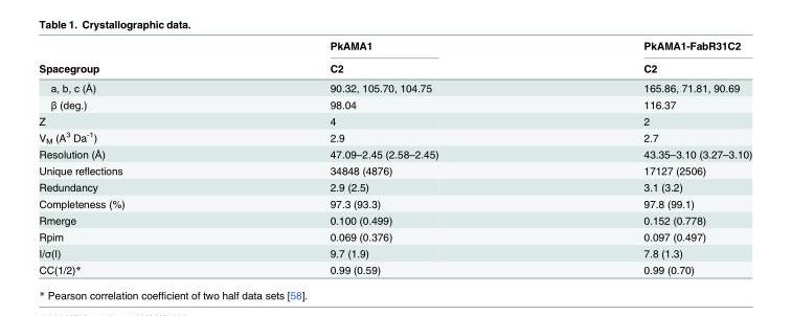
<table><thead><tr><td rowspan="2">Spacegroup</td><td rowspan="2">PkAMA1 C2</td><td rowspan="2">PkAMA1-FabR31C2 C2</td></tr><tr></tr></thead><tbody><tr><td>a, b, c (Å)</td><td>90.32, 105.70, 104.75</td><td>165.86, 71.81, 90.69</td></tr><tr><td>β (deg.)</td><td>98.04</td><td>116.37</td></tr><tr><td>Z</td><td>4</td><td>2</td></tr><tr><td>V<sub>M</sub> (A<sup>3</sup> Da<sup>-1</sup>)</td><td>2.9</td><td>2.7</td></tr><tr><td>Resolution (Å)</td><td>47.09–2.45 (2.58–2.45)</td><td>43.35–3.10 (3.27–3.10)</td></tr><tr><td>Unique reflections</td><td>34848 (4876)</td><td>17127 (2506)</td></tr><tr><td>Redundancy</td><td>2.9 (2.5)</td><td>3.1 (3.2)</td></tr><tr><td>Completeness (%)</td><td>97.3 (93.3)</td><td>97.8 (99.1)</td></tr><tr><td>Rmerge</td><td>0.100 (0.499)</td><td>0.152 (0.778)</td></tr><tr><td>Rpim</td><td>0.069 (0.376)</td><td>0.097 (0.497)</td></tr><tr><td>I/σ(I)</td><td>9.7 (1.9)</td><td>7.8 (1.3)</td></tr><tr><td>CC(1/2)*</td><td>0.99 (0.59)</td><td>0.99 (0.70)</td></tr></tbody></table>